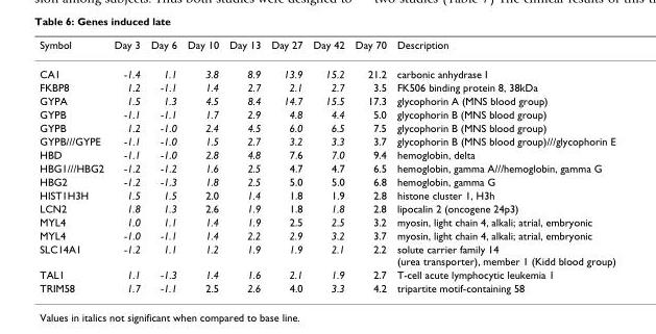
<table><thead><tr><td>Symbol</td><td>Day 3</td><td>Day 6</td><td>Day 10</td><td>Day 13</td><td>Day 27</td><td>Day 42</td><td>Day 70</td><td>Description</td></tr></thead><tbody><tr><td>CA1</td><td>-1.4</td><td>1.1</td><td>3.8</td><td>8.9</td><td>13.9</td><td>15.2</td><td>21.2</td><td>carbonic anhydrase I</td></tr><tr><td>FKBP8</td><td>1.2</td><td>-1.1</td><td>1.4</td><td>2.7</td><td>2.1</td><td>2.7</td><td>3.5</td><td>FK506 binding protein 8, 38kDa</td></tr><tr><td>GYPA</td><td>1.5</td><td>1.3</td><td>4.5</td><td>8.4</td><td>14.7</td><td>15.5</td><td>17.3</td><td>glycophorin A (MNS blood group)</td></tr><tr><td>GYPB</td><td>-1.1</td><td>-1.1</td><td>1.7</td><td>2.9</td><td>4.8</td><td>4.4</td><td>5.0</td><td>glycophorin B (MNS blood group)</td></tr><tr><td>GYPB</td><td>1.2</td><td>-1.0</td><td>2.4</td><td>4.5</td><td>6.0</td><td>6.5</td><td>7.5</td><td>glycophorin B (MNS blood group)</td></tr><tr><td>GYPB///GYPE</td><td>-1.1</td><td>-1.0</td><td>1.5</td><td>2.7</td><td>3.2</td><td>3.3</td><td>3.7</td><td>glycophorin B (MNS blood group)///glycophorin E</td></tr><tr><td>HBD</td><td>-1.1</td><td>-1.0</td><td>2.8</td><td>4.8</td><td>7.6</td><td>7.0</td><td>9.4</td><td>hemoglobin, delta</td></tr><tr><td>HBG1///HBG2</td><td>-1.2</td><td>-1.2</td><td>1.6</td><td>2.5</td><td>4.7</td><td>4.7</td><td>6.5</td><td>hemoglobin, gamma A///hemoglobin, gamma G</td></tr><tr><td>HBG2</td><td>-1.2</td><td>-1.3</td><td>1.8</td><td>2.5</td><td>5.0</td><td>5.0</td><td>6.8</td><td>hemoglobin, gamma G</td></tr><tr><td>HIST1H3H</td><td>1.5</td><td>1.5</td><td>2.0</td><td>1.4</td><td>1.8</td><td>1.9</td><td>2.8</td><td>histone cluster 1, H3h</td></tr><tr><td>LCN2</td><td>1.8</td><td>1.3</td><td>2.6</td><td>1.9</td><td>1.8</td><td>1.8</td><td>2.8</td><td>lipocalin 2 (oncogene 24p3)</td></tr><tr><td>MYL4</td><td>1.0</td><td>1.1</td><td>1.4</td><td>1.9</td><td>2.5</td><td>2.5</td><td>3.2</td><td>myosin, light chain 4, alkali; atrial, embryonic</td></tr><tr><td>MYL4</td><td>-1.0</td><td>-1.1</td><td>1.4</td><td>2.2</td><td>2.9</td><td>3.2</td><td>3.7</td><td>myosin, light chain 4, alkali; atrial, embryonic</td></tr><tr><td>SLC14A1</td><td>-1.2</td><td>1.1</td><td>1.2</td><td>1.9</td><td>1.9</td><td>2.1</td><td>2.2</td><td>solute carrier family 14 (urea transporter), member 1 (Kidd blood group)</td></tr><tr><td>TAL1</td><td>1.1</td><td>-1.3</td><td>1.4</td><td>1.6</td><td>2.1</td><td>1.9</td><td>2.7</td><td>T-cell acute lymphocytic leukemia 1</td></tr><tr><td>TRIM58</td><td>1.7</td><td>-1.1</td><td>2.5</td><td>2.6</td><td>4.0</td><td>3.3</td><td>4.2</td><td>tripartite motif-containing 58</td></tr></tbody></table>